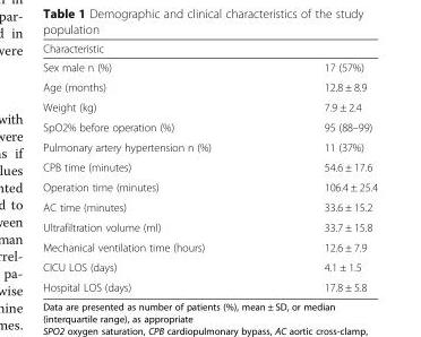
<table><thead><tr><td colspan="2">Characteristic</td></tr><tr><td>Sex male n (%)</td><td>17 (57%)</td></tr></thead><tbody><tr><td>Age (months)</td><td>12.8 ± 8.9</td></tr><tr><td>Weight (kg)</td><td>7.9 ± 2.4</td></tr><tr><td>SpO2% before operation (%)</td><td>95 (88–99)</td></tr><tr><td>Pulmonary artery hypertension n (%)</td><td>11 (37%)</td></tr><tr><td>CPB time (minutes)</td><td>54.6 ± 17.6</td></tr><tr><td>Operation time (minutes)</td><td>106.4 ± 25.4</td></tr><tr><td>AC time (minutes)</td><td>33.6 ± 15.2</td></tr><tr><td>Ultrafiltration volume (ml)</td><td>33.7 ± 15.8</td></tr><tr><td>Mechanical ventilation time (hours)</td><td>12.6 ± 7.9</td></tr><tr><td>CICU LOS (days)</td><td>4.1 ± 1.5</td></tr><tr><td>Hospital LOS (days)</td><td>17.8 ± 5.8</td></tr></tbody></table>